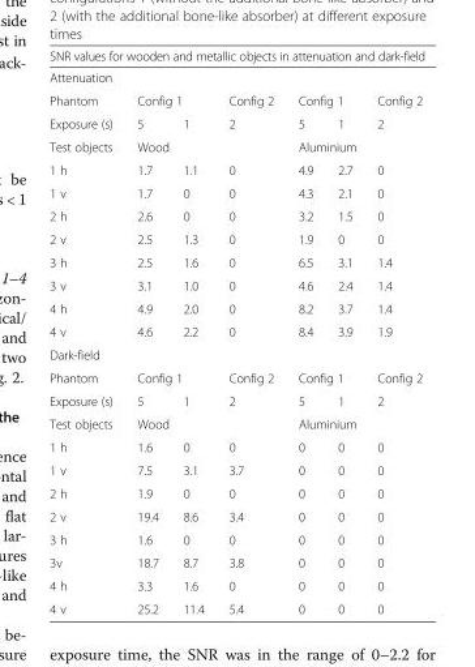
<table><thead><tr><td rowspan="2" colspan="7">SNR values for wooden and metallic objects in attenuation and dark-field Attenuation</td></tr><tr></tr><tr><td rowspan="2">Phantom Exposure (s)</td><td colspan="2">Config 1</td><td rowspan="2">Config 2 2</td><td colspan="2">Config 1</td><td rowspan="2">Config 2 2</td></tr><tr><td>5</td><td>1</td><td>5</td><td>1</td></tr></thead><tbody><tr><td>Test objects</td><td colspan="3">Wood</td><td colspan="3">Aluminium</td></tr><tr><td>1 h</td><td>1.7</td><td>1.1</td><td>0</td><td>4.9</td><td>2.7</td><td>0</td></tr><tr><td>1 v</td><td>1.7</td><td>0</td><td>0</td><td>4.3</td><td>2.1</td><td>0</td></tr><tr><td>2 h</td><td>2.6</td><td>0</td><td>0</td><td>3.2</td><td>1.5</td><td>0</td></tr><tr><td>2 v</td><td>2.5</td><td>1.3</td><td>0</td><td>1.9</td><td>0</td><td>0</td></tr><tr><td>3 h</td><td>2.5</td><td>1.6</td><td>0</td><td>6.5</td><td>3.1</td><td>1.4</td></tr><tr><td>3 v</td><td>3.1</td><td>1.0</td><td>0</td><td>4.6</td><td>2.4</td><td>1.4</td></tr><tr><td>4 h</td><td>4.9</td><td>2.0</td><td>0</td><td>8.2</td><td>3.7</td><td>1.4</td></tr><tr><td>4 v</td><td>4.6</td><td>2.2</td><td>0</td><td>8.4</td><td>3.9</td><td>1.9</td></tr><tr><td colspan="7">Dark-field</td></tr><tr><td>Phantom</td><td colspan="2">Config 1</td><td>Config 2</td><td colspan="2">Config 1</td><td>Config 2</td></tr><tr><td>Exposure (s)</td><td>5</td><td>1</td><td>2</td><td>5</td><td>1</td><td>2</td></tr><tr><td>Test objects</td><td colspan="3">Wood</td><td colspan="3">Aluminium</td></tr><tr><td>1 h</td><td>1.6</td><td>0</td><td>0</td><td>0</td><td>0</td><td>0</td></tr><tr><td>1 v</td><td>7.5</td><td>3.1</td><td>3.7</td><td>0</td><td>0</td><td>0</td></tr><tr><td>2 h</td><td>1.9</td><td>0</td><td>0</td><td>0</td><td>0</td><td>0</td></tr><tr><td>2 v</td><td>19.4</td><td>8.6</td><td>3.4</td><td>0</td><td>0</td><td>0</td></tr><tr><td>3 h</td><td>1.6</td><td>0</td><td>0</td><td>0</td><td>0</td><td>0</td></tr><tr><td>3v</td><td>18.7</td><td>8.7</td><td>3.8</td><td>0</td><td>0</td><td>0</td></tr><tr><td>4 h</td><td>3.3</td><td>1.6</td><td>0</td><td>0</td><td>0</td><td>0</td></tr><tr><td>4 v</td><td>25.2</td><td>11.4</td><td>5.4</td><td>0</td><td>0</td><td>0</td></tr></tbody></table>